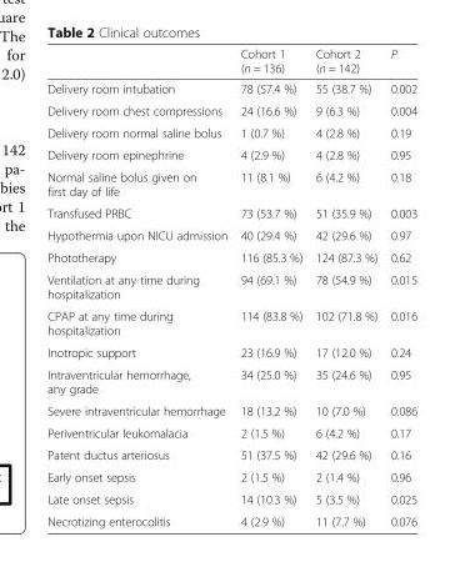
<table><thead><tr><td></td><td>Cohort 1 (n = 136)</td><td>Cohort 2 (n = 142)</td><td>P</td></tr></thead><tbody><tr><td>Delivery room intubation</td><td>78 (57.4 %)</td><td>55 (38.7 %)</td><td>0.002</td></tr><tr><td>Delivery room chest compressions</td><td>24 (16.6 %)</td><td>9 (6.3 %)</td><td>0.004</td></tr><tr><td>Delivery room normal saline bolus</td><td>1 (0.7 %)</td><td>4 (2.8 %)</td><td>0.19</td></tr><tr><td>Delivery room epinephrine</td><td>4 (2.9 %)</td><td>4 (2.8 %)</td><td>0.95</td></tr><tr><td>Normal saline bolus given on first day of life</td><td>11 (8.1 %)</td><td>6 (4.2 %)</td><td>0.18</td></tr><tr><td>Transfused PRBC</td><td>73 (53.7 %)</td><td>51 (35.9 %)</td><td>0.003</td></tr><tr><td>Hypothermia upon NICU admission</td><td>40 (29.4 %)</td><td>42 (29.6 %)</td><td>0.97</td></tr><tr><td>Phototherapy</td><td>116 (85.3 %)</td><td>124 (87.3 %)</td><td>0.62</td></tr><tr><td>Ventilation at any time during hospitalization</td><td>94 (69.1 %)</td><td>78 (54.9 %)</td><td>0.015</td></tr><tr><td>CPAP at any time during hospitalization</td><td>114 (83.8 %)</td><td>102 (71.8 %)</td><td>0.016</td></tr><tr><td>Inotropic support</td><td>23 (16.9 %)</td><td>17 (12.0 %)</td><td>0.24</td></tr><tr><td>Intraventricular hemorrhage, any grade</td><td>34 (25.0 %)</td><td>35 (24.6 %)</td><td>0.95</td></tr><tr><td>Severe intraventricular hemorrhage</td><td>18 (13.2 %)</td><td>10 (7.0 %)</td><td>0.086</td></tr><tr><td>Periventricular leukomalacia</td><td>2 (1.5 %)</td><td>6 (4.2 %)</td><td>0.17</td></tr><tr><td>Patent ductus arteriosus</td><td>51 (37.5 %)</td><td>42 (29.6 %)</td><td>0.16</td></tr><tr><td>Early onset sepsis</td><td>2 (1.5 %)</td><td>2 (1.4 %)</td><td>0.96</td></tr><tr><td>Late onset sepsis</td><td>14 (10.3 %)</td><td>5 (3.5 %)</td><td>0.025</td></tr><tr><td>Necrotizing enterocolitis</td><td>4 (2.9 %)</td><td>11 (7.7 %)</td><td>0.076</td></tr></tbody></table>